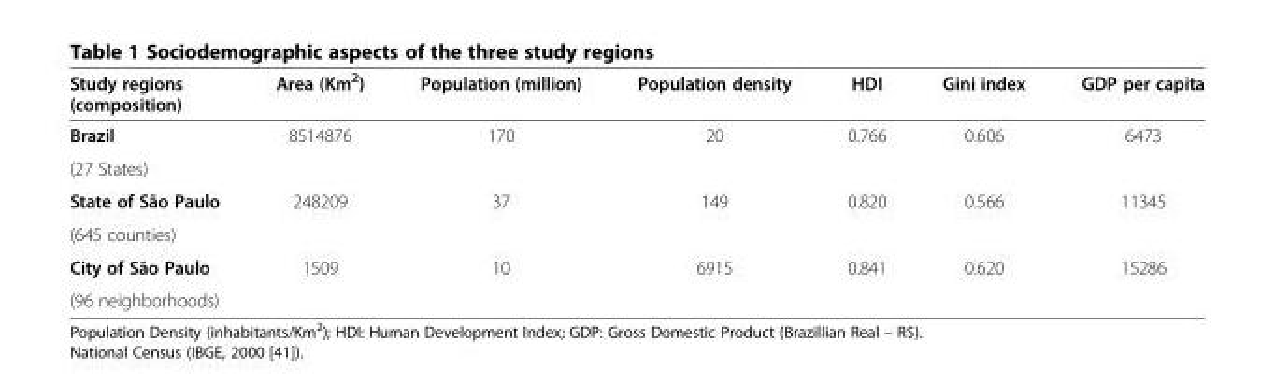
<table><thead><tr><td>Study regions (composition)</td><td>Area (Km<sup>2</sup>)</td><td>Population (million)</td><td>Population density</td><td>HDI</td><td>Gini index</td><td>GDP per capita</td></tr></thead><tbody><tr><td>Brazil</td><td>8514876</td><td>170</td><td>20</td><td>0.766</td><td>0.606</td><td>6473</td></tr><tr><td colspan="7">(27 States)</td></tr><tr><td>State of São Paulo</td><td>248209</td><td>37</td><td>149</td><td>0.820</td><td>0.566</td><td>11345</td></tr><tr><td colspan="7">(645 counties)</td></tr><tr><td>City of São Paulo</td><td>1509</td><td>10</td><td>6915</td><td>0.841</td><td>0.620</td><td>15286</td></tr><tr><td colspan="7">(96 neighborhoods)</td></tr></tbody></table>